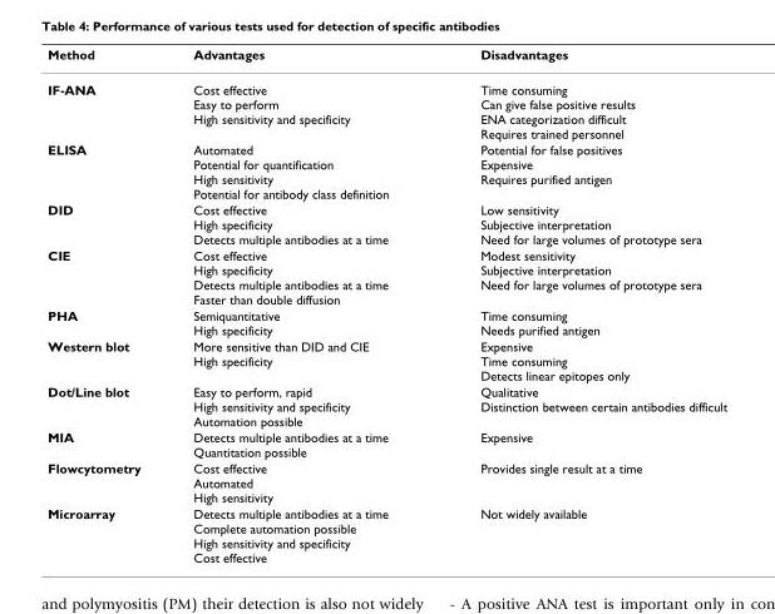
<table><thead><tr><td>Method</td><td>Advantages</td><td>Disadvantages</td></tr></thead><tbody><tr><td>IF-ANA</td><td>Cost effective Easy to perform High sensitivity and specificity</td><td>Time consuming Can give false positive results ENA categorization difficult Requires trained personnel</td></tr><tr><td>ELISA</td><td>Automated Potential for quantification High sensitivity Potential for antibody class definition</td><td>Potential for false positives Expensive Requires purified antigen</td></tr><tr><td>DID</td><td>Cost effective High specificity Detects multiple antibodies at a time</td><td>Low sensitivity Subjective interpretation Need for large volumes of prototype sera</td></tr><tr><td>CIE</td><td>Cost effective High specificity Detects multiple antibodies at a time Faster than double diffusion</td><td>Modest sensitivity Subjective interpretation Need for large volumes of prototype sera</td></tr><tr><td>PHA</td><td>Semiquantitative High specificity</td><td>Time consuming Needs purified antigen</td></tr><tr><td>Western blot</td><td>More sensitive than DID and CIE High specificity</td><td>Expensive Time consuming Detects linear epitopes only</td></tr><tr><td>Dot/Line blot</td><td>Easy to perform, rapid High sensitivity and specificity Automation possible</td><td>Qualitative Distinction between certain antibodies difficult</td></tr><tr><td>MIA</td><td>Detects multiple antibodies at a time Quantitation possible</td><td>Expensive</td></tr><tr><td>Flowcytometry</td><td>Cost effective Automated High sensitivity</td><td>Provides single result at a time</td></tr><tr><td>Microarray</td><td>Detects multiple antibodies at a time Complete automation possible High sensitivity and specificity Cost effective</td><td>Not widely available</td></tr></tbody></table>